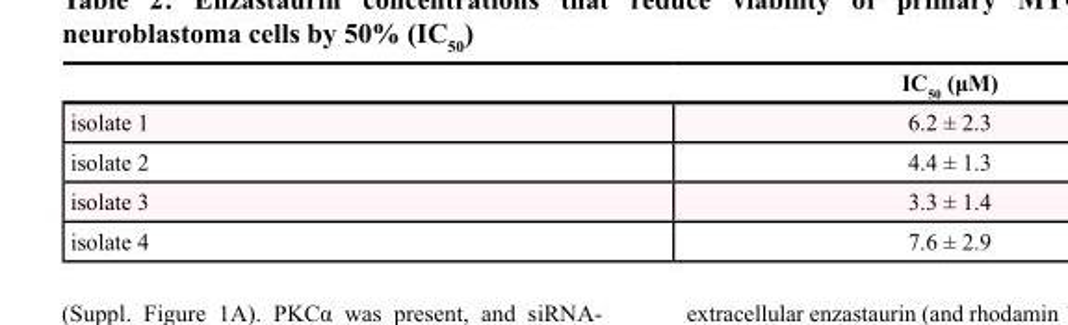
<table><thead><tr><td></td><td>IC<sub>50</sub> (μM)</td></tr></thead><tbody><tr><td>isolate 1</td><td>6.2 ± 2.3</td></tr><tr><td>isolate 2</td><td>4.4 ± 1.3</td></tr><tr><td>isolate 3</td><td>3.3 ± 1.4</td></tr><tr><td>isolate 4</td><td>7.6 ± 2.9</td></tr></tbody></table>